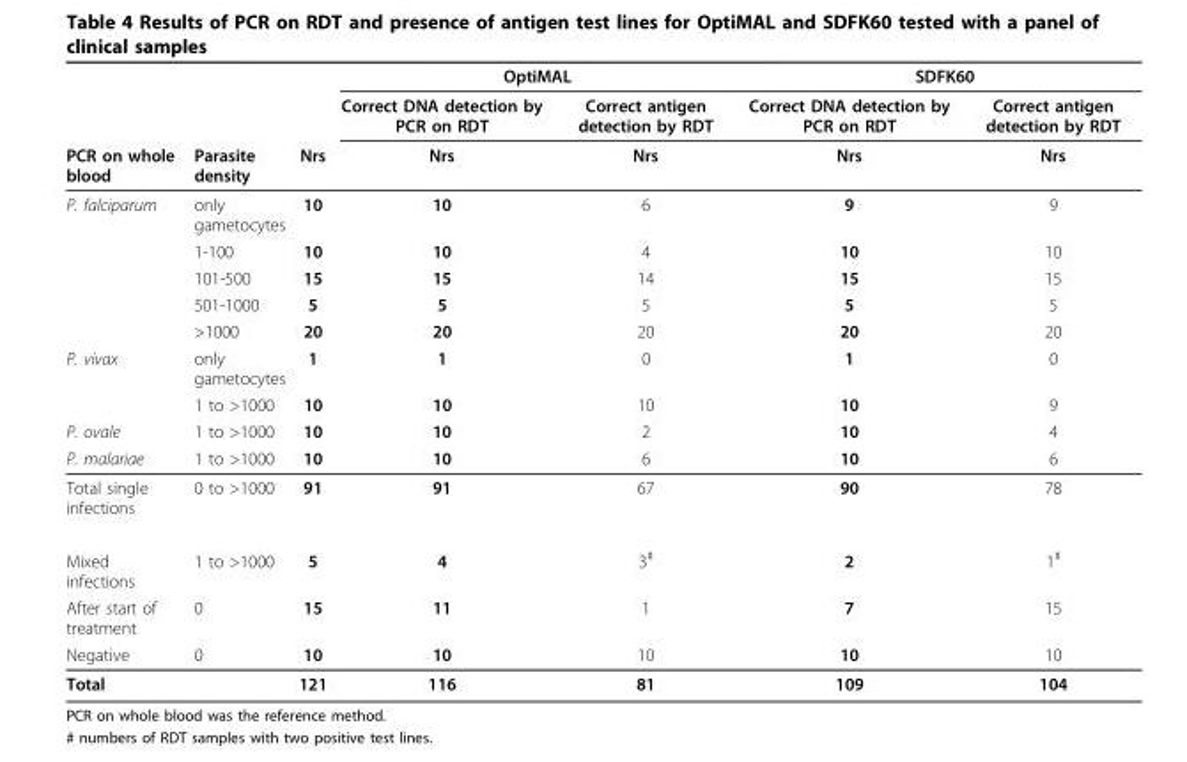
<table><thead><tr><td rowspan="3">PCR on whole blood</td><td rowspan="3">Parasite density</td><td rowspan="3">Nrs</td><td colspan="2">OptiMAL</td><td colspan="2">SDFK60</td></tr><tr><td rowspan="2">Correct DNA detection by PCR on RDT Nrs</td><td rowspan="2">Correct antigen detection by RDT Nrs</td><td rowspan="2">Correct DNA detection by PCR on RDT Nrs</td><td rowspan="2">Correct antigen detection by RDT Nrs</td></tr><tr></tr></thead><tbody><tr><td rowspan="5">P. falciparum</td><td>only gametocytes</td><td>10</td><td>10</td><td>6</td><td>9</td><td>9</td></tr><tr><td>1-100</td><td>10</td><td>10</td><td>4</td><td>10</td><td>10</td></tr><tr><td>101-500</td><td>15</td><td>15</td><td>14</td><td>15</td><td>15</td></tr><tr><td>501-1000</td><td>5</td><td>5</td><td>5</td><td>5</td><td>5</td></tr><tr><td>&gt;1000</td><td>20</td><td>20</td><td>20</td><td>20</td><td>20</td></tr><tr><td rowspan="2">P. vivax</td><td>only gametocytes</td><td>1</td><td>1</td><td>0</td><td>1</td><td>0</td></tr><tr><td>1 to &gt;1000</td><td>10</td><td>10</td><td>10</td><td>10</td><td>9</td></tr><tr><td>P. ovale</td><td>1 to &gt;1000</td><td>10</td><td>10</td><td>2</td><td>10</td><td>4</td></tr><tr><td>P. malariae</td><td>1 to &gt;1000</td><td>10</td><td>10</td><td>6</td><td>10</td><td>6</td></tr><tr><td>Total single infections</td><td>0 to &gt;1000</td><td>91</td><td>91</td><td>67</td><td>90</td><td>78</td></tr><tr><td>Mixed infections</td><td>1 to &gt;1000</td><td>5</td><td>4</td><td>3<sup>#</sup></td><td>2</td><td>1<sup>#</sup></td></tr><tr><td>After start of treatment</td><td>0</td><td>15</td><td>11</td><td>1</td><td>7</td><td>15</td></tr><tr><td>Negative</td><td>0</td><td>10</td><td>10</td><td>10</td><td>10</td><td>10</td></tr><tr><td>Total</td><td></td><td>121</td><td>116</td><td>81</td><td>109</td><td>104</td></tr></tbody></table>